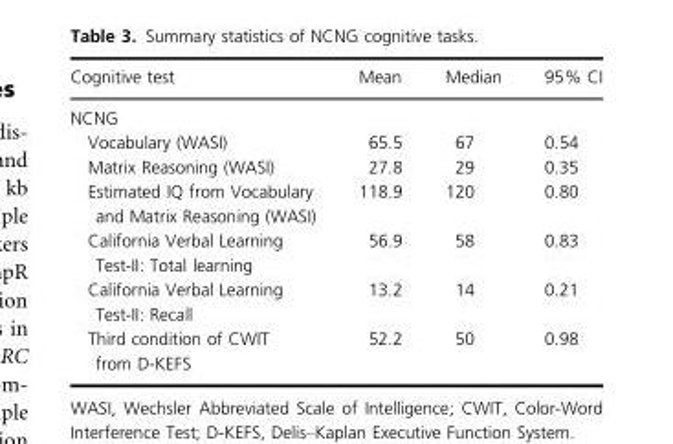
<table><thead><tr><td>Cognitive test</td><td>Mean</td><td>Median</td><td>95% CI</td></tr></thead><tbody><tr><td colspan="4">NCNG</td></tr><tr><td>Vocabulary (WASI)</td><td>65.5</td><td>67</td><td>0.54</td></tr><tr><td>Matrix Reasoning (WASI)</td><td>27.8</td><td>29</td><td>0.35</td></tr><tr><td>Estimated IQ from Vocabulary and Matrix Reasoning (WASI)</td><td>118.9</td><td>120</td><td>0.80</td></tr><tr><td>California Verbal Learning Test-II: Total learning</td><td>56.9</td><td>58</td><td>0.83</td></tr><tr><td>California Verbal Learning Test-II: Recall</td><td>13.2</td><td>14</td><td>0.21</td></tr><tr><td>Third condition of CWIT from D-KEFS</td><td>52.2</td><td>50</td><td>0.98</td></tr></tbody></table>